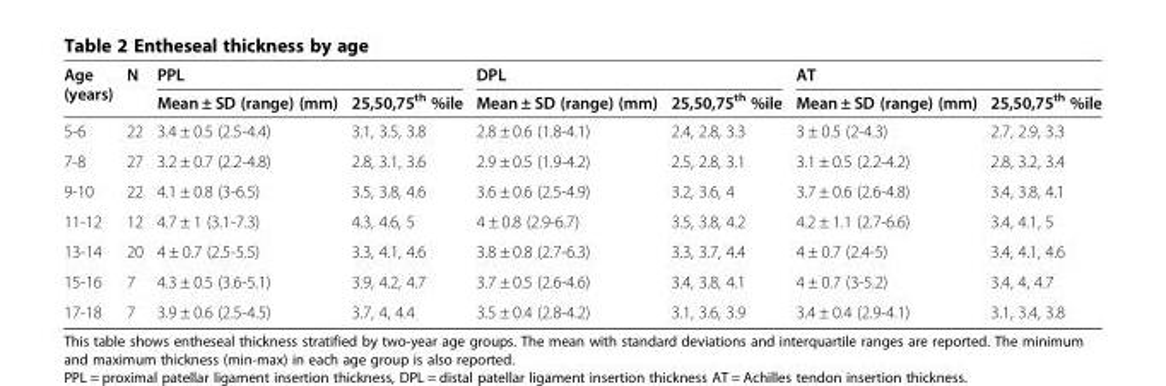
<table><thead><tr><td rowspan="2">Age (years)</td><td rowspan="2">N</td><td colspan="2">PPL</td><td colspan="2">DPL</td><td colspan="2">AT</td></tr><tr><td>Mean ± SD (range) (mm)</td><td>25,50,75<sup>th</sup> %ile</td><td>Mean ± SD (range) (mm)</td><td>25,50,75<sup>th</sup> %ile</td><td>Mean ± SD (range) (mm)</td><td>25,50,75<sup>th</sup> %ile</td></tr></thead><tbody><tr><td>5-6</td><td>22</td><td>3.4 ± 0.5 (2.5-4.4)</td><td>3.1, 3.5, 3.8</td><td>2.8 ± 0.6 (1.8-4.1)</td><td>2.4, 2.8, 3.3</td><td>3 ± 0.5 (2-4.3)</td><td>2.7, 2.9, 3.3</td></tr><tr><td>7-8</td><td>27</td><td>3.2 ± 0.7 (2.2-4.8)</td><td>2.8, 3.1, 3.6</td><td>2.9 ± 0.5 (1.9-4.2)</td><td>2.5, 2.8, 3.1</td><td>3.1 ± 0.5 (2.2-4.2)</td><td>2.8, 3.2, 3.4</td></tr><tr><td>9-10</td><td>22</td><td>4.1 ± 0.8 (3-6.5)</td><td>3.5, 3.8, 4.6</td><td>3.6 ± 0.6 (2.5-4.9)</td><td>3.2, 3.6, 4</td><td>3.7 ± 0.6 (2.6-4.8)</td><td>3.4, 3.8, 4.1</td></tr><tr><td>11-12</td><td>12</td><td>4.7 ± 1 (3.1-7.3)</td><td>4.3, 4.6, 5</td><td>4 ± 0.8 (2.9-6.7)</td><td>3.5, 3.8, 4.2</td><td>4.2 ± 1.1 (2.7-6.6)</td><td>3.4, 4.1, 5</td></tr><tr><td>13-14</td><td>20</td><td>4 ± 0.7 (2.5-5.5)</td><td>3.3, 4.1, 4.6</td><td>3.8 ± 0.8 (2.7-6.3)</td><td>3.3, 3.7, 4.4</td><td>4 ± 0.7 (2.4-5)</td><td>3.4, 4.1, 4.6</td></tr><tr><td>15-16</td><td>7</td><td>4.3 ± 0.5 (3.6-5.1)</td><td>3.9, 4.2, 4.7</td><td>3.7 ± 0.5 (2.6-4.6)</td><td>3.4, 3.8, 4.1</td><td>4 ± 0.7 (3-5.2)</td><td>3.4, 4, 4.7</td></tr><tr><td>17-18</td><td>7</td><td>3.9 ± 0.6 (2.5-4.5)</td><td>3.7, 4, 4.4</td><td>3.5 ± 0.4 (2.8-4.2)</td><td>3.1, 3.6, 3.9</td><td>3.4 ± 0.4 (2.9-4.1)</td><td>3.1, 3.4, 3.8</td></tr></tbody></table>